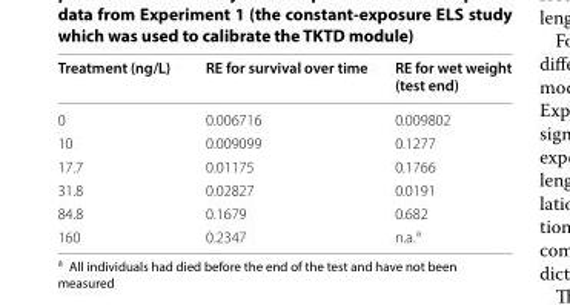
<table><thead><tr><td>Treatment (ng/L)</td><td>RE for survival over time</td><td>RE for wet weight (test end)</td></tr></thead><tbody><tr><td>0</td><td>0.006716</td><td>0.009802</td></tr><tr><td>10</td><td>0.009099</td><td>0.1277</td></tr><tr><td>17.7</td><td>0.01175</td><td>0.1766</td></tr><tr><td>31.8</td><td>0.02827</td><td>0.0191</td></tr><tr><td>84.8</td><td>0.1679</td><td>0.682</td></tr><tr><td>160</td><td>0.2347</td><td>n.a.<sup>a</sup></td></tr></tbody></table>